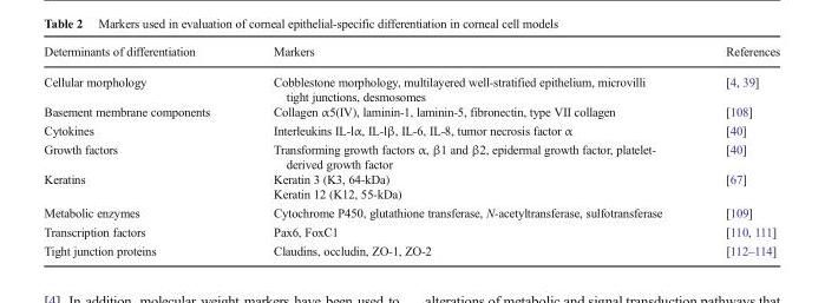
<table><thead><tr><td>Determinants of differentiation</td><td>Markers</td><td>References</td></tr></thead><tbody><tr><td>Cellular morphology</td><td>Cobblestone morphology, multilayered well-stratified epithelium, microvilli tight junctions, desmosomes</td><td>[4, 39]</td></tr><tr><td>Basement membrane components</td><td>Collagen α5(IV), laminin-1, laminin-5, fibronectin, type VII collagen</td><td>[108]</td></tr><tr><td>Cytokines</td><td>Interleukins IL-lα, IL-lβ, IL-6, IL-8, tumor necrosis factor α</td><td>[40]</td></tr><tr><td>Growth factors</td><td>Transforming growth factors α, β1 and β2, epidermal growth factor, platelet- derived growth factor</td><td>[40]</td></tr><tr><td rowspan="2">Keratins</td><td>Keratin 3 (K3, 64-kDa)</td><td rowspan="2">[67]</td></tr><tr><td>Keratin 12 (K12, 55-kDa)</td></tr><tr><td>Metabolic enzymes</td><td>Cytochrome P450, glutathione transferase, N-acetyltransferase, sulfotransferase</td><td>[109]</td></tr><tr><td>Transcription factors</td><td>Pax6, FoxC1</td><td>[110, 111]</td></tr><tr><td>Tight junction proteins</td><td>Claudins, occludin, ZO-1, ZO-2</td><td>[112–114]</td></tr></tbody></table>